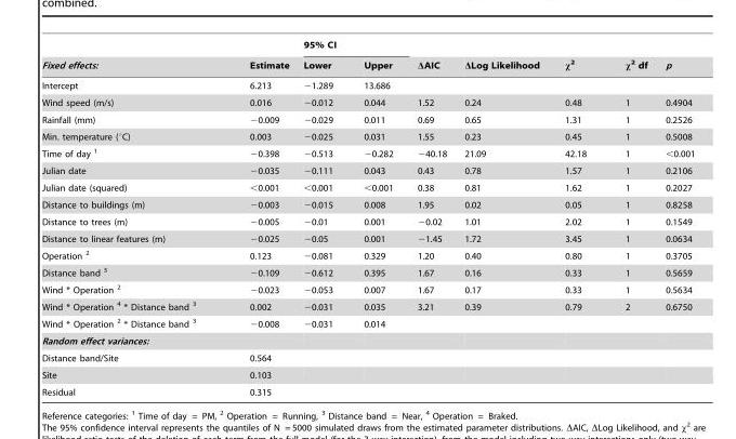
<table><thead><tr><td rowspan="2">Fixed effects:</td><td rowspan="2">Estimate</td><td colspan="2">95% CI</td><td rowspan="2">ΔAIC</td><td rowspan="2">ΔLog Likelihood</td><td rowspan="2">χ<sup>2</sup></td><td rowspan="2">χ<sup>2</sup> df</td><td rowspan="2">p</td></tr><tr><td>Lower</td><td>Upper</td></tr></thead><tbody><tr><td>Intercept</td><td>6.213</td><td>−1.289</td><td>13.686</td><td></td><td></td><td></td><td></td><td></td></tr><tr><td>Wind speed (m/s)</td><td>0.016</td><td>−0.012</td><td>0.044</td><td>1.52</td><td>0.24</td><td>0.48</td><td>1</td><td>0.4904</td></tr><tr><td>Rainfall (mm)</td><td>−0.009</td><td>−0.029</td><td>0.011</td><td>0.69</td><td>0.65</td><td>1.31</td><td>1</td><td>0.2526</td></tr><tr><td>Min. temperature (°C)</td><td>0.003</td><td>−0.025</td><td>0.031</td><td>1.55</td><td>0.23</td><td>0.45</td><td>1</td><td>0.5008</td></tr><tr><td>Time of day <sup>1</sup></td><td>−0.398</td><td>−0.513</td><td>−0.282</td><td>−40.18</td><td>21.09</td><td>42.18</td><td>1</td><td>&lt;0.001</td></tr><tr><td>Julian date</td><td>−0.035</td><td>−0.111</td><td>0.043</td><td>0.43</td><td>0.78</td><td>1.57</td><td>1</td><td>0.2106</td></tr><tr><td>Julian date (squared)</td><td>&lt;0.001</td><td>&lt;0.001</td><td>&lt;0.001</td><td>0.38</td><td>0.81</td><td>1.62</td><td>1</td><td>0.2027</td></tr><tr><td>Distance to buildings (m)</td><td>−0.003</td><td>−0.015</td><td>0.008</td><td>1.95</td><td>0.02</td><td>0.05</td><td>1</td><td>0.8258</td></tr><tr><td>Distance to trees (m)</td><td>−0.005</td><td>−0.01</td><td>0.001</td><td>−0.02</td><td>1.01</td><td>2.02</td><td>1</td><td>0.1549</td></tr><tr><td>Distance to linear features (m)</td><td>−0.025</td><td>−0.05</td><td>0.001</td><td>−1.45</td><td>1.72</td><td>3.45</td><td>1</td><td>0.0634</td></tr><tr><td>Operation <sup>2</sup></td><td>0.123</td><td>−0.081</td><td>0.329</td><td>1.20</td><td>0.40</td><td>0.80</td><td>1</td><td>0.3705</td></tr><tr><td>Distance band <sup>3</sup></td><td>−0.109</td><td>−0.612</td><td>0.395</td><td>1.67</td><td>0.16</td><td>0.33</td><td>1</td><td>0.5659</td></tr><tr><td>Wind * Operation <sup>2</sup></td><td>−0.023</td><td>−0.053</td><td>0.007</td><td>1.67</td><td>0.17</td><td>0.33</td><td>1</td><td>0.5634</td></tr><tr><td>Wind * Operation <sup>4</sup> * Distance band <sup>3</sup></td><td>0.002</td><td>−0.031</td><td>0.035</td><td>3.21</td><td>0.39</td><td>0.79</td><td>2</td><td>0.6750</td></tr><tr><td>Wind * Operation <sup>2</sup> * Distance band <sup>3</sup></td><td>−0.008</td><td>−0.031</td><td>0.014</td><td></td><td></td><td></td><td></td><td></td></tr><tr><td colspan="9">Random effect variances:</td></tr><tr><td>Distance band/Site</td><td>0.564</td><td></td><td></td><td></td><td></td><td></td><td></td><td></td></tr><tr><td>Site</td><td>0.103</td><td></td><td></td><td></td><td></td><td></td><td></td><td></td></tr><tr><td>Residual</td><td>0.315</td><td></td><td></td><td></td><td></td><td></td><td></td><td></td></tr></tbody></table>